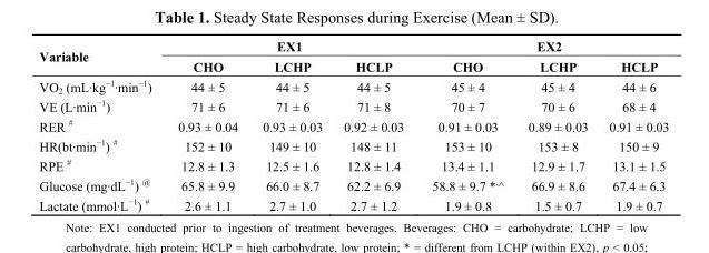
<table><thead><tr><td rowspan="2">Variable</td><td colspan="3">EX1</td><td colspan="3">EX2</td></tr><tr><td>CHO</td><td>LCHP</td><td>HCLP</td><td>CHO</td><td>LCHP</td><td>HCLP</td></tr></thead><tbody><tr><td>VO<sub>2</sub> (mL·kg<sup>−1</sup>·min<sup>−1</sup>)</td><td>44 ± 5</td><td>44 ± 5</td><td>44 ± 5</td><td>45 ± 4</td><td>45 ± 4</td><td>44 ± 6</td></tr><tr><td>VE (L·min<sup>−1</sup>)</td><td>71 ± 6</td><td>71 ± 6</td><td>71 ± 8</td><td>70 ± 7</td><td>70 ± 6</td><td>68 ± 4</td></tr><tr><td>RER <sup>#</sup></td><td>0.93 ± 0.04</td><td>0.93 ± 0.03</td><td>0.92 ± 0.03</td><td>0.91 ± 0.03</td><td>0.89 ± 0.03</td><td>0.91 ± 0.03</td></tr><tr><td>HR(bt·min<sup>−1</sup>) <sup>#</sup></td><td>152 ± 10</td><td>149 ± 10</td><td>148 ± 11</td><td>153 ± 10</td><td>153 ± 8</td><td>150 ± 9</td></tr><tr><td>RPE <sup>#</sup></td><td>12.8 ± 1.3</td><td>12.5 ± 1.6</td><td>12.8 ± 1.4</td><td>13.4 ± 1.1</td><td>12.9 ± 1.7</td><td>13.1 ± 1.5</td></tr><tr><td>Glucose (mg·dL<sup>−1</sup>) <sup>@</sup></td><td>65.8 ± 9.9</td><td>66.0 ± 8.7</td><td>62.2 ± 6.9</td><td>58.8 ± 9.7 *,^</td><td>66.9 ± 8.6</td><td>67.4 ± 6.3</td></tr><tr><td>Lactate (mmol·L<sup>−1</sup>) <sup>#</sup></td><td>2.6 ± 1.1</td><td>2.7 ± 1.0</td><td>2.7 ± 1.2</td><td>1.9 ± 0.8</td><td>1.5 ± 0.7</td><td>1.9 ± 0.7</td></tr></tbody></table>